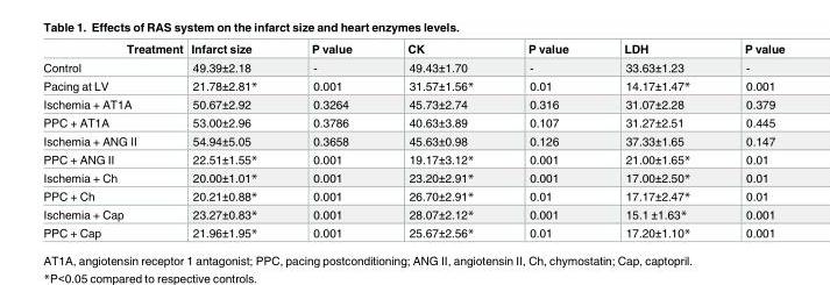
<table><thead><tr><td>Treatment</td><td>Infarct size</td><td>P value</td><td>CK</td><td>P value</td><td>LDH</td><td>P value</td></tr></thead><tbody><tr><td>Control</td><td>49.39±2.18</td><td>-</td><td>49.43±1.70</td><td>-</td><td>33.63±1.23</td><td>-</td></tr><tr><td>Pacing at LV</td><td>21.78±2.81*</td><td>0.001</td><td>31.57±1.56*</td><td>0.01</td><td>14.17±1.47*</td><td>0.001</td></tr><tr><td>Ischemia + AT1A</td><td>50.67±2.92</td><td>0.3264</td><td>45.73±2.74</td><td>0.316</td><td>31.07±2.28</td><td>0.379</td></tr><tr><td>PPC + AT1A</td><td>53.00±2.96</td><td>0.3786</td><td>40.63±3.89</td><td>0.107</td><td>31.27±2.51</td><td>0.445</td></tr><tr><td>Ischemia + ANG II</td><td>54.94±5.05</td><td>0.3658</td><td>45.63±0.98</td><td>0.126</td><td>37.33±1.65</td><td>0.147</td></tr><tr><td>PPC + ANG II</td><td>22.51±1.55*</td><td>0.001</td><td>19.17±3.12*</td><td>0.001</td><td>21.00±1.65*</td><td>0.01</td></tr><tr><td>Ischemia + Ch</td><td>20.00±1.01*</td><td>0.001</td><td>23.20±2.91*</td><td>0.001</td><td>17.00±2.50*</td><td>0.01</td></tr><tr><td>PPC + Ch</td><td>20.21±0.88*</td><td>0.001</td><td>26.70±2.91*</td><td>0.01</td><td>17.17±2.47*</td><td>0.01</td></tr><tr><td>Ischemia + Cap</td><td>23.27±0.83*</td><td>0.001</td><td>28.07±2.12*</td><td>0.001</td><td>15.1 ±1.63*</td><td>0.001</td></tr><tr><td>PPC + Cap</td><td>21.96±1.95*</td><td>0.001</td><td>25.67±2.56*</td><td>0.01</td><td>17.20±1.10*</td><td>0.001</td></tr></tbody></table>